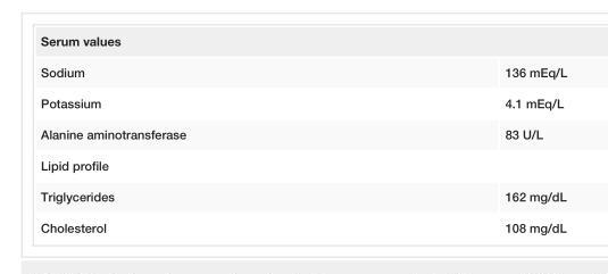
<table><tbody><tr><td colspan="2">Serum values</td></tr><tr><td>Sodium</td><td>136 mEq/L</td></tr><tr><td>Potassium</td><td>4.1 mEq/L</td></tr><tr><td>Alanine aminotransferase</td><td>83 U/L</td></tr><tr><td colspan="2">Lipid profile</td></tr><tr><td>Triglycerides</td><td>162 mg/dL</td></tr><tr><td>Cholesterol</td><td>108 mg/dL</td></tr></tbody></table>